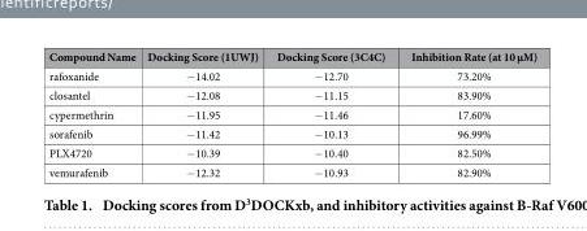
<table><thead><tr><td>Compound Name</td><td>Docking Score (1UWJ)</td><td>Docking Score (3C4C)</td><td>Inhibition Rate (at 10 μ M)</td></tr></thead><tbody><tr><td>rafoxanide</td><td>− 14.02</td><td>− 12.70</td><td>73.20%</td></tr><tr><td>closantel</td><td>− 12.08</td><td>− 11.15</td><td>83.90%</td></tr><tr><td>cypermethrin</td><td>− 11.95</td><td>− 11.46</td><td>17.60%</td></tr><tr><td>sorafenib</td><td>− 11.42</td><td>− 10.13</td><td>96.99%</td></tr><tr><td>PLX4720</td><td>− 10.39</td><td>− 10.40</td><td>82.50%</td></tr><tr><td>vemurafenib</td><td>− 12.32</td><td>− 10.93</td><td>82.90%</td></tr></tbody></table>